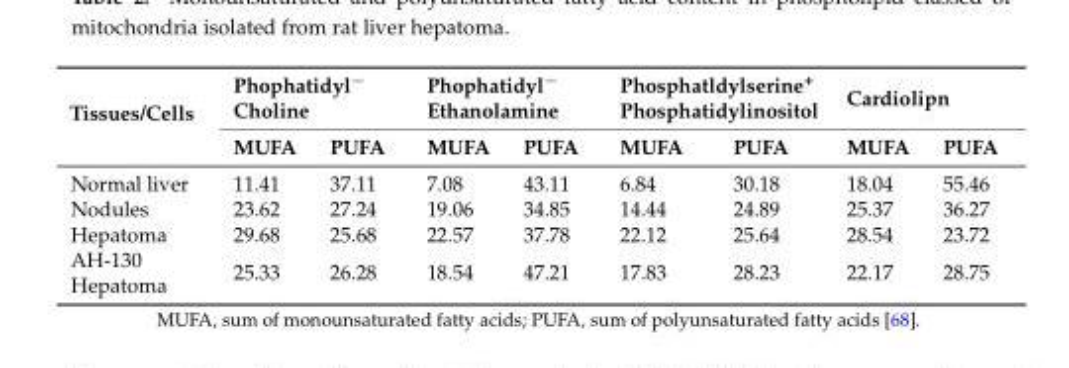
<table><thead><tr><td rowspan="2">Tissues/Cells</td><td colspan="2">Phophatidyl<sup>−</sup> Choline</td><td colspan="2">Phophatidyl<sup>−</sup> Ethanolamine</td><td colspan="2">Phosphatldylserine<sup>+</sup> Phosphatidylinositol</td><td colspan="2">Cardiolipn</td></tr><tr><td>MUFA</td><td>PUFA</td><td>MUFA</td><td>PUFA</td><td>MUFA</td><td>PUFA</td><td>MUFA</td><td>PUFA</td></tr></thead><tbody><tr><td>Normal liver</td><td>11.41</td><td>37.11</td><td>7.08</td><td>43.11</td><td>6.84</td><td>30.18</td><td>18.04</td><td>55.46</td></tr><tr><td>Nodules</td><td>23.62</td><td>27.24</td><td>19.06</td><td>34.85</td><td>14.44</td><td>24.89</td><td>25.37</td><td>36.27</td></tr><tr><td>Hepatoma</td><td>29.68</td><td>25.68</td><td>22.57</td><td>37.78</td><td>22.12</td><td>25.64</td><td>28.54</td><td>23.72</td></tr><tr><td>AH-130 Hepatoma</td><td>25.33</td><td>26.28</td><td>18.54</td><td>47.21</td><td>17.83</td><td>28.23</td><td>22.17</td><td>28.75</td></tr></tbody></table>